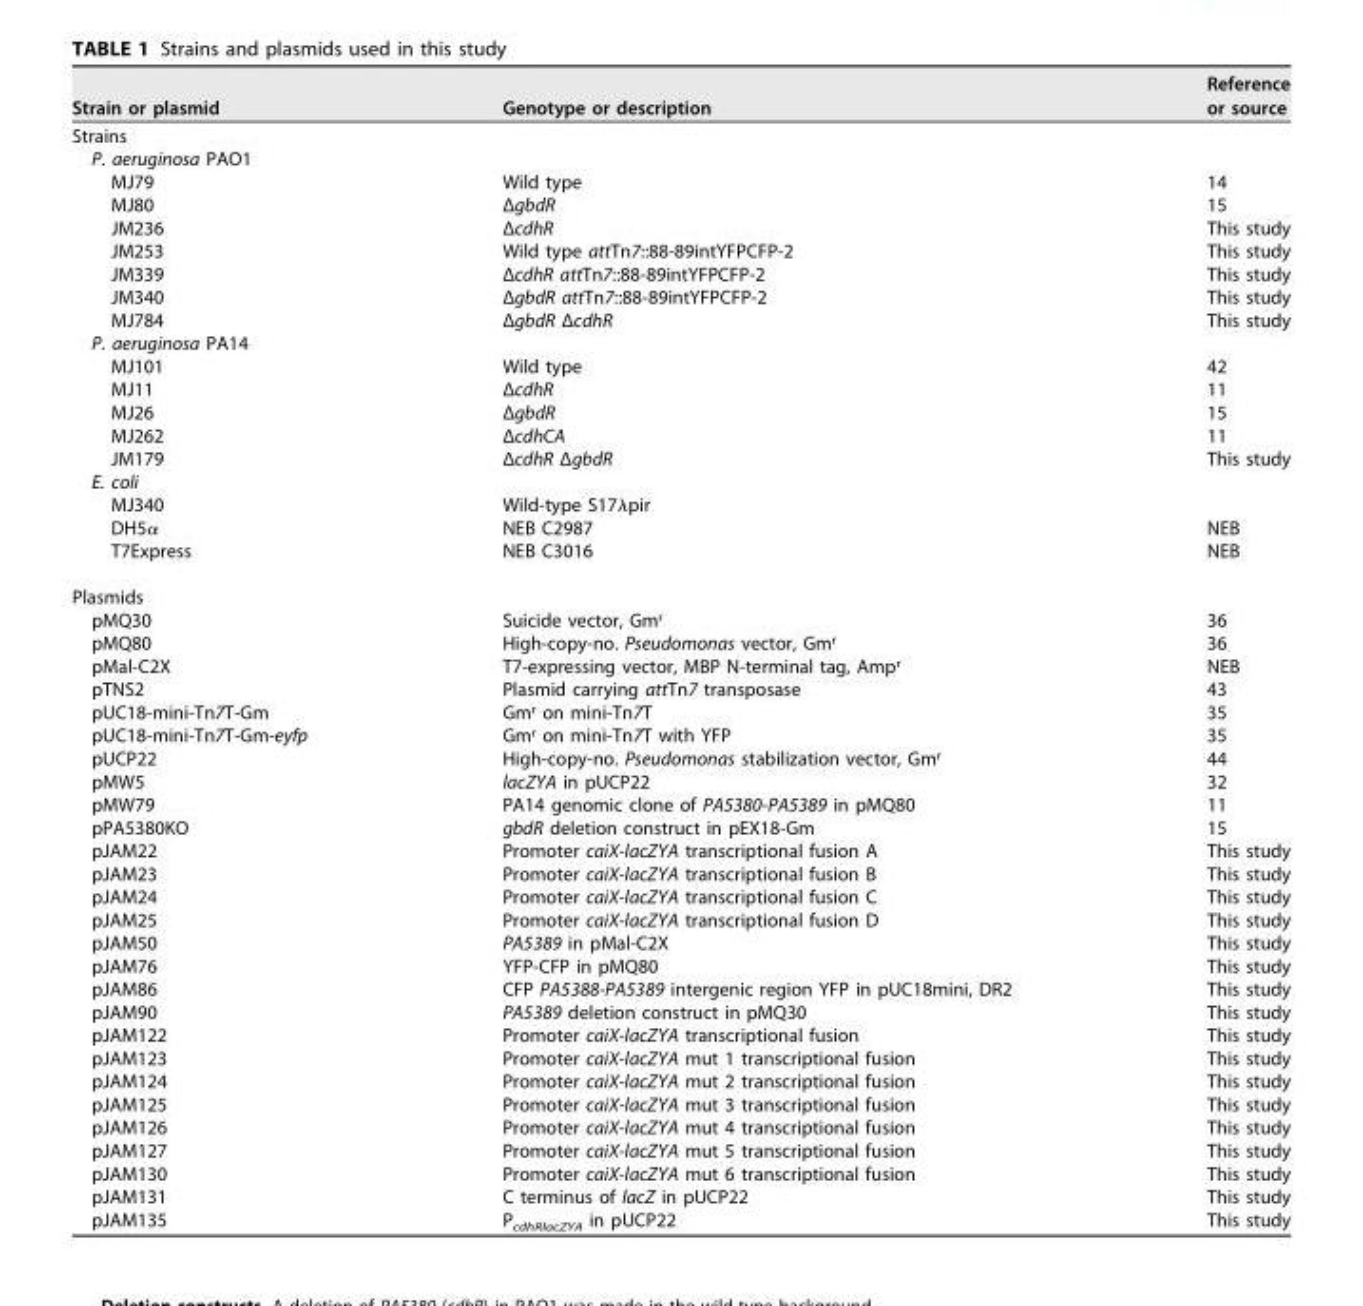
<table><thead><tr><td>Strain or plasmid</td><td>Genotype or description</td><td>Reference or source</td></tr></thead><tbody><tr><td colspan="3">Strains</td></tr><tr><td colspan="3">P. aeruginosa PAO1</td></tr><tr><td>MJ79</td><td>Wild type</td><td>14</td></tr><tr><td>MJ80</td><td>ΔgbdR</td><td>15</td></tr><tr><td>JM236</td><td>ΔcdhR</td><td>This study</td></tr><tr><td>JM253</td><td>Wild type attTn7::88-89intYFPCFP-2</td><td>This study</td></tr><tr><td>JM339</td><td>ΔcdhR attTn7::88-89intYFPCFP-2</td><td>This study</td></tr><tr><td>JM340</td><td>ΔgbdR attTn7::88-89intYFPCFP-2</td><td>This study</td></tr><tr><td>MJ784</td><td>ΔgbdR ΔcdhR</td><td>This study</td></tr><tr><td colspan="3">P. aeruginosa PA14</td></tr><tr><td>MJ101</td><td>Wild type</td><td>42</td></tr><tr><td>MJ11</td><td>ΔcdhR</td><td>11</td></tr><tr><td>MJ26</td><td>ΔgbdR</td><td>15</td></tr><tr><td>MJ262</td><td>ΔcdhCA</td><td>11</td></tr><tr><td>JM179</td><td>ΔcdhR ΔgbdR</td><td>This study</td></tr><tr><td colspan="3">E. coli</td></tr><tr><td>MJ340</td><td>Wild-type S17λpir</td><td></td></tr><tr><td>DH5α</td><td>NEB C2987</td><td>NEB</td></tr><tr><td>T7Express</td><td>NEB C3016</td><td>NEB</td></tr><tr><td colspan="3">Plasmids</td></tr><tr><td>pMQ30</td><td>Suicide vector, Gm<sup>r</sup></td><td>36</td></tr><tr><td>pMQ80</td><td>High-copy-no. Pseudomonas vector, Gm<sup>r</sup></td><td>36</td></tr><tr><td>pMal-C2X</td><td>T7-expressing vector, MBP N-terminal tag, Amp<sup>r</sup></td><td>NEB</td></tr><tr><td>pTNS2</td><td>Plasmid carrying attTn7 transposase</td><td>43</td></tr><tr><td>pUC18-mini-Tn7T-Gm</td><td>Gm<sup>r</sup> on mini-Tn7T</td><td>35</td></tr><tr><td>pUC18-mini-Tn7T-Gm-eyfp</td><td>Gm<sup>r</sup> on mini-Tn7T with YFP</td><td>35</td></tr><tr><td>pUCP22</td><td>High-copy-no. Pseudomonas stabilization vector, Gm<sup>r</sup></td><td>44</td></tr><tr><td>pMW5</td><td>lacZYA in pUCP22</td><td>32</td></tr><tr><td>pMW79</td><td>PA14 genomic clone of PA5380-PA5389 in pMQ80</td><td>11</td></tr><tr><td>pPA5380KO</td><td>gbdR deletion construct in pEX18-Gm</td><td>15</td></tr><tr><td>pJAM22</td><td>Promoter caiX-lacZYA transcriptional fusion A</td><td>This study</td></tr><tr><td>pJAM23</td><td>Promoter caiX-lacZYA transcriptional fusion B</td><td>This study</td></tr><tr><td>pJAM24</td><td>Promoter caiX-lacZYA transcriptional fusion C</td><td>This study</td></tr><tr><td>pJAM25</td><td>Promoter caiX-lacZYA transcriptional fusion D</td><td>This study</td></tr><tr><td>pJAM50</td><td>PA5389 in pMal-C2X</td><td>This study</td></tr><tr><td>pJAM76</td><td>YFP-CFP in pMQ80</td><td>This study</td></tr><tr><td>pJAM86</td><td>CFP PA5388-PA5389 intergenic region YFP in pUC18mini, DR2</td><td>This study</td></tr><tr><td>pJAM90</td><td>PA5389 deletion construct in pMQ30</td><td>This study</td></tr><tr><td>pJAM122</td><td>Promoter caiX-lacZYA transcriptional fusion</td><td>This study</td></tr><tr><td>pJAM123</td><td>Promoter caiX-lacZYA mut 1 transcriptional fusion</td><td>This study</td></tr><tr><td>pJAM124</td><td>Promoter caiX-lacZYA mut 2 transcriptional fusion</td><td>This study</td></tr><tr><td>pJAM125</td><td>Promoter caiX-lacZYA mut 3 transcriptional fusion</td><td>This study</td></tr><tr><td>pJAM126</td><td>Promoter caiX-lacZYA mut 4 transcriptional fusion</td><td>This study</td></tr><tr><td>pJAM127</td><td>Promoter caiX-lacZYA mut 5 transcriptional fusion</td><td>This study</td></tr><tr><td>pJAM130</td><td>Promoter caiX-lacZYA mut 6 transcriptional fusion</td><td>This study</td></tr><tr><td>pJAM131</td><td>C terminus of lacZ in pUCP22</td><td>This study</td></tr><tr><td>pJAM135</td><td>P<sub>cdhRlacZYA</sub> in pUCP22</td><td>This study</td></tr></tbody></table>